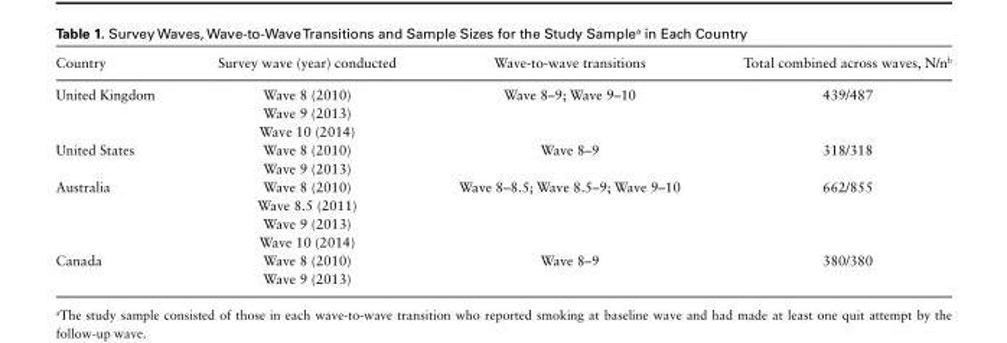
<table><thead><tr><td>Country</td><td>Survey wave (year) conducted</td><td>Wave-to-wave transitions</td><td>Total combined across waves, N/n<sup>b</sup></td></tr></thead><tbody><tr><td rowspan="3">United Kingdom</td><td>Wave 8 (2010)</td><td rowspan="3">Wave 8–9; Wave 9–10</td><td rowspan="3">439/487</td></tr><tr><td>Wave 9 (2013)</td></tr><tr><td>Wave 10 (2014)</td></tr><tr><td rowspan="2">United States</td><td>Wave 8 (2010)</td><td rowspan="2">Wave 8–9</td><td rowspan="2">318/318</td></tr><tr><td>Wave 9 (2013)</td></tr><tr><td rowspan="4">Australia</td><td>Wave 8 (2010)</td><td rowspan="4">Wave 8–8.5; Wave 8.5–9; Wave 9–10</td><td rowspan="4">662/855</td></tr><tr><td>Wave 8.5 (2011)</td></tr><tr><td>Wave 9 (2013)</td></tr><tr><td>Wave 10 (2014)</td></tr><tr><td rowspan="2">Canada</td><td>Wave 8 (2010)</td><td rowspan="2">Wave 8–9</td><td rowspan="2">380/380</td></tr><tr><td>Wave 9 (2013)</td></tr></tbody></table>